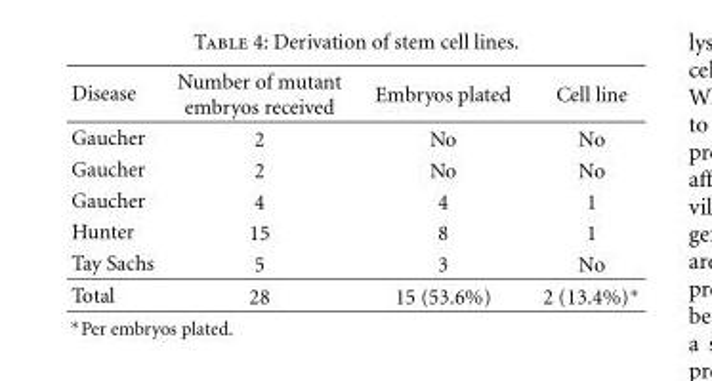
<table><thead><tr><td>Disease</td><td>Number of mutant embryos received</td><td>Embryos plated</td><td>Cell line</td></tr></thead><tbody><tr><td>Gaucher</td><td>2</td><td>No</td><td>No</td></tr><tr><td>Gaucher</td><td>2</td><td>No</td><td>No</td></tr><tr><td>Gaucher</td><td>4</td><td>4</td><td>1</td></tr><tr><td>Hunter</td><td>15</td><td>8</td><td>1</td></tr><tr><td>Tay Sachs</td><td>5</td><td>3</td><td>No</td></tr><tr><td>Total</td><td>28</td><td>15 (53.6%)</td><td>2 (13.4%)∗</td></tr></tbody></table>